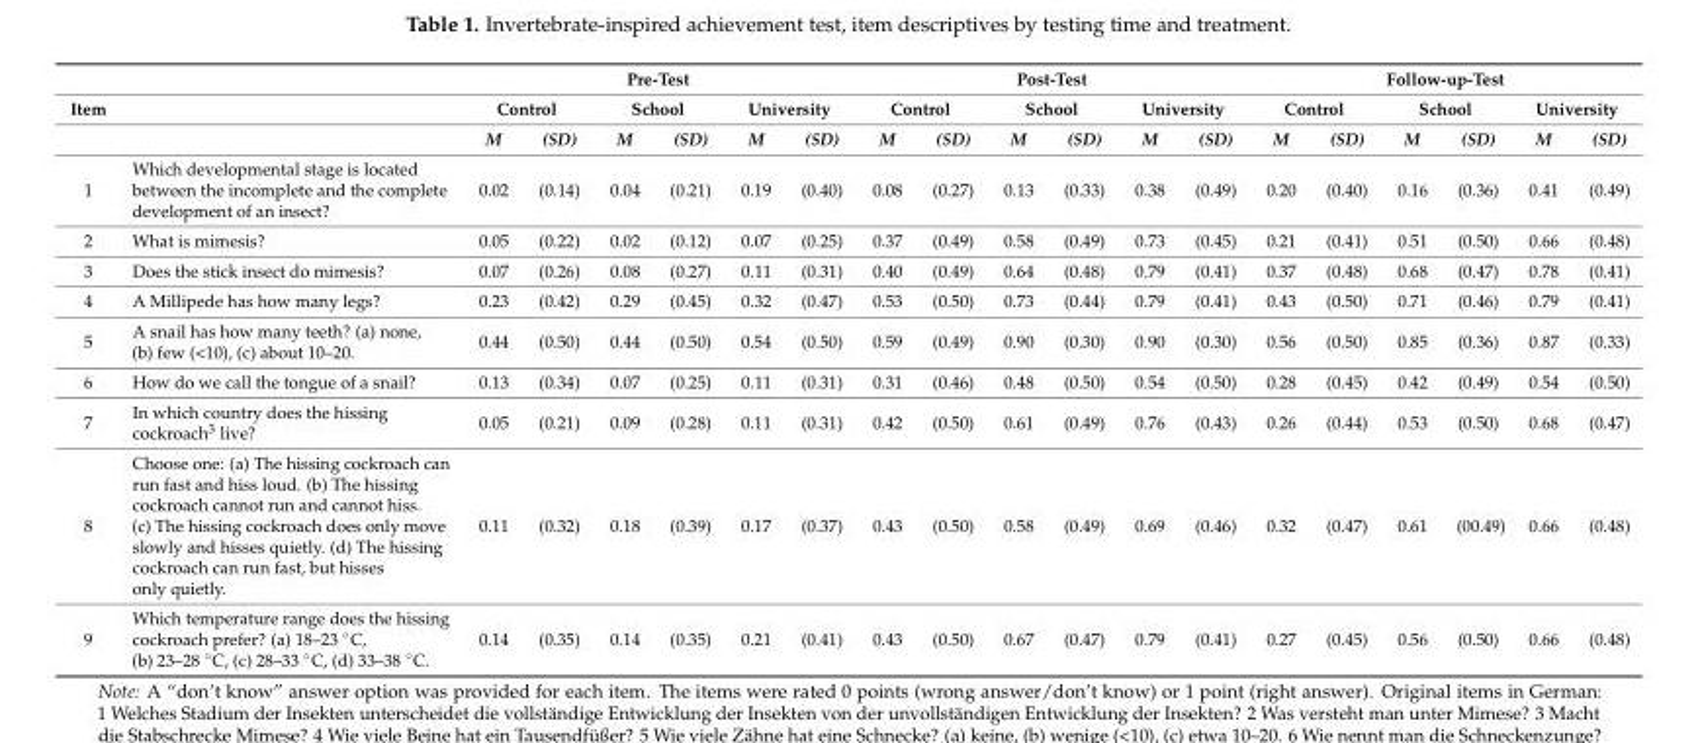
<table><thead><tr><td rowspan="3">Item</td><td rowspan="3"></td><td colspan="6">Pre-Test</td><td colspan="6">Post-Test</td><td colspan="6">Follow-up-Test</td></tr><tr><td colspan="2">Control</td><td colspan="2">School</td><td colspan="2">University</td><td colspan="2">Control</td><td colspan="2">School</td><td colspan="2">University</td><td colspan="2">Control</td><td colspan="2">School</td><td colspan="2">University</td></tr><tr><td>M</td><td>(SD)</td><td>M</td><td>(SD)</td><td>M</td><td>(SD)</td><td>M</td><td>(SD)</td><td>M</td><td>(SD)</td><td>M</td><td>(SD)</td><td>M</td><td>(SD)</td><td>M</td><td>(SD)</td><td>M</td><td>(SD)</td></tr></thead><tbody><tr><td>1</td><td>Which developmental stage is located between the incomplete and the complete development of an insect?</td><td>0.02</td><td>(0.14)</td><td>0.04</td><td>(0.21)</td><td>0.19</td><td>(0.40)</td><td>0.08</td><td>(0.27)</td><td>0.13</td><td>(0.33)</td><td>0.38</td><td>(0.49)</td><td>0.20</td><td>(0.40)</td><td>0.16</td><td>(0.36)</td><td>0.41</td><td>(0.49)</td></tr><tr><td>2</td><td>What is mimesis?</td><td>0.05</td><td>(0.22)</td><td>0.02</td><td>(0.12)</td><td>0.07</td><td>(0.25)</td><td>0.37</td><td>(0.49)</td><td>0.58</td><td>(0.49)</td><td>0.73</td><td>(0.45)</td><td>0.21</td><td>(0.41)</td><td>0.51</td><td>(0.50)</td><td>0.66</td><td>(0.48)</td></tr><tr><td>3</td><td>Does the stick insect do mimesis?</td><td>0.07</td><td>(0.26)</td><td>0.08</td><td>(0.27)</td><td>0.11</td><td>(0.31)</td><td>0.40</td><td>(0.49)</td><td>0.64</td><td>(0.48)</td><td>0.79</td><td>(0.41)</td><td>0.37</td><td>(0.48)</td><td>0.68</td><td>(0.47)</td><td>0.78</td><td>(0.41)</td></tr><tr><td>4</td><td>A Millipede has how many legs?</td><td>0.23</td><td>(0.42)</td><td>0.29</td><td>(0.45)</td><td>0.32</td><td>(0.47)</td><td>0.53</td><td>(0.50)</td><td>0.73</td><td>(0.44)</td><td>0.79</td><td>(0.41)</td><td>0.43</td><td>(0.50)</td><td>0.71</td><td>(0.46)</td><td>0.79</td><td>(0.41)</td></tr><tr><td>5</td><td>A snail has how many teeth? (a) none, (b) few (&lt;10), (c) about 10–20.</td><td>0.44</td><td>(0.50)</td><td>0.44</td><td>(0.50)</td><td>0.54</td><td>(0.50)</td><td>0.59</td><td>(0.49)</td><td>0.90</td><td>(0.30)</td><td>0.90</td><td>(0.30)</td><td>0.56</td><td>(0.50)</td><td>0.85</td><td>(0.36)</td><td>0.87</td><td>(0.33)</td></tr><tr><td>6</td><td>How do we call the tongue of a snail?</td><td>0.13</td><td>(0.34)</td><td>0.07</td><td>(0.25)</td><td>0.11</td><td>(0.31)</td><td>0.31</td><td>(0.46)</td><td>0.48</td><td>(0.50)</td><td>0.54</td><td>(0.50)</td><td>0.28</td><td>(0.45)</td><td>0.42</td><td>(0.49)</td><td>0.54</td><td>(0.50)</td></tr><tr><td>7</td><td>In which country does the hissing cockroach<sup>3</sup> live?</td><td>0.05</td><td>(0.21)</td><td>0.09</td><td>(0.28)</td><td>0.11</td><td>(0.31)</td><td>0.42</td><td>(0.50)</td><td>0.61</td><td>(0.49)</td><td>0.76</td><td>(0.43)</td><td>0.26</td><td>(0.44)</td><td>0.53</td><td>(0.50)</td><td>0.68</td><td>(0.47)</td></tr><tr><td>8</td><td>Choose one: (a) The hissing cockroach can run fast and hiss loud. (b) The hissing cockroach cannot run and cannot hiss. (c) The hissing cockroach does only move slowly and hisses quietly. (d) The hissing cockroach can run fast, but hisses only quietly.</td><td>0.11</td><td>(0.32)</td><td>0.18</td><td>(0.39)</td><td>0.17</td><td>(0.37)</td><td>0.43</td><td>(0.50)</td><td>0.58</td><td>(0.49)</td><td>0.69</td><td>(0.46)</td><td>0.32</td><td>(0.47)</td><td>0.61</td><td>(00.49)</td><td>0.66</td><td>(0.48)</td></tr><tr><td>9</td><td>Which temperature range does the hissing cockroach prefer? (a) 18–23 ◦C, (b) 23–28 ◦C, (c) 28–33 ◦C, (d) 33–38 ◦C.</td><td>0.14</td><td>(0.35)</td><td>0.14</td><td>(0.35)</td><td>0.21</td><td>(0.41)</td><td>0.43</td><td>(0.50)</td><td>0.67</td><td>(0.47)</td><td>0.79</td><td>(0.41)</td><td>0.27</td><td>(0.45)</td><td>0.56</td><td>(0.50)</td><td>0.66</td><td>(0.48)</td></tr></tbody></table>